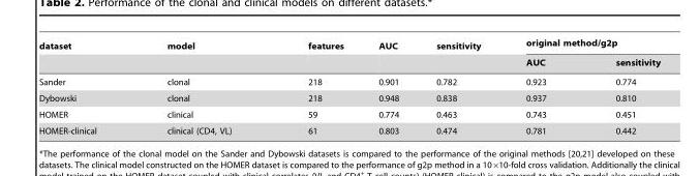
<table><thead><tr><td rowspan="2">dataset</td><td rowspan="2">model</td><td rowspan="2">features</td><td rowspan="2">AUC</td><td rowspan="2">sensitivity</td><td colspan="2">original method/g2p</td></tr><tr><td>AUC</td><td>sensitivity</td></tr></thead><tbody><tr><td>Sander</td><td>clonal</td><td>218</td><td>0.901</td><td>0.782</td><td>0.923</td><td>0.774</td></tr><tr><td>Dybowski</td><td>clonal</td><td>218</td><td>0.948</td><td>0.838</td><td>0.937</td><td>0.810</td></tr><tr><td>HOMER</td><td>clinical</td><td>59</td><td>0.774</td><td>0.463</td><td>0.743</td><td>0.451</td></tr><tr><td>HOMER-clinical</td><td>clinical (CD4, VL)</td><td>61</td><td>0.803</td><td>0.474</td><td>0.781</td><td>0.442</td></tr></tbody></table>